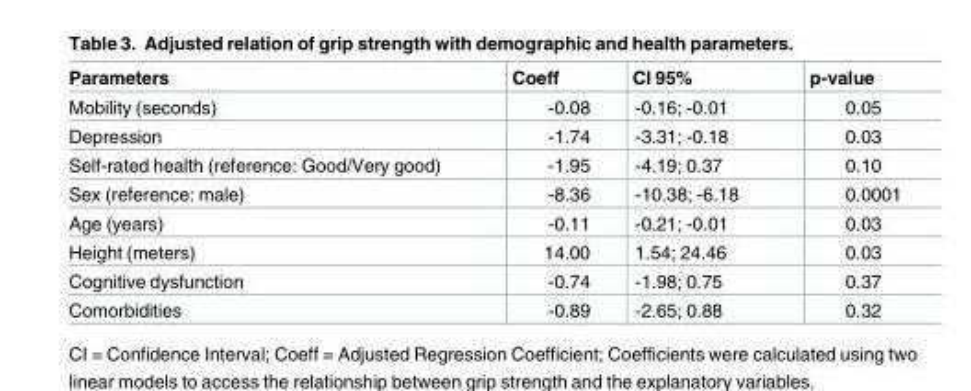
<table><thead><tr><td>Parameters</td><td>Coeff</td><td>CI 95%</td><td>p-value</td></tr></thead><tbody><tr><td>Mobility (seconds)</td><td>-0.08</td><td>-0.16; -0.01</td><td>0.05</td></tr><tr><td>Depression</td><td>-1.74</td><td>-3.31; -0.18</td><td>0.03</td></tr><tr><td>Self-rated health (reference: Good/Very good)</td><td>-1.95</td><td>-4.19; 0.37</td><td>0.10</td></tr><tr><td>Sex (reference: male)</td><td>-8.36</td><td>-10.38; -6.18</td><td>0.0001</td></tr><tr><td>Age (years)</td><td>-0.11</td><td>-0.21; -0.01</td><td>0.03</td></tr><tr><td>Height (meters)</td><td>14.00</td><td>1.54; 24.46</td><td>0.03</td></tr><tr><td>Cognitive dysfunction</td><td>-0.74</td><td>-1.98; 0.75</td><td>0.37</td></tr><tr><td>Comorbidities</td><td>-0.89</td><td>-2.65; 0.88</td><td>0.32</td></tr></tbody></table>